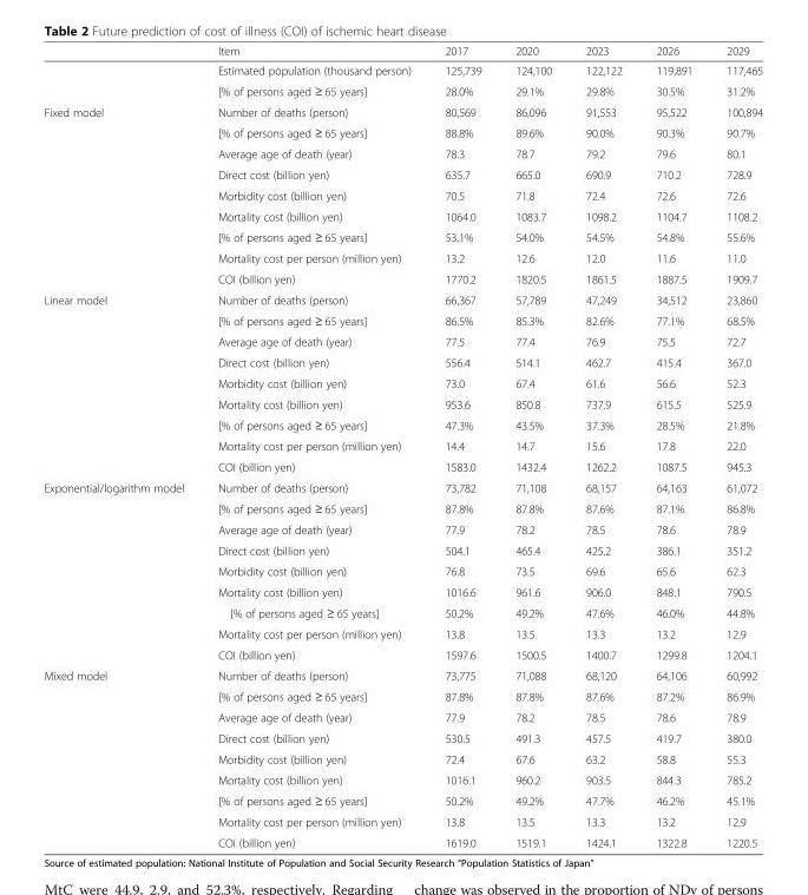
<table><thead><tr><td></td><td>Item</td><td>2017</td><td>2020</td><td>2023</td><td>2026</td><td>2029</td></tr></thead><tbody><tr><td rowspan="2"></td><td>Estimated population (thousand person)</td><td>125,739</td><td>124,100</td><td>122,122</td><td>119,891</td><td>117,465</td></tr><tr><td>[% of persons aged ≥ 65 years]</td><td>28.0%</td><td>29.1%</td><td>29.8%</td><td>30.5%</td><td>31.2%</td></tr><tr><td rowspan="9">Fixed model</td><td>Number of deaths (person)</td><td>80,569</td><td>86,096</td><td>91,553</td><td>95,522</td><td>100,894</td></tr><tr><td>[% of persons aged ≥ 65 years]</td><td>88.8%</td><td>89.6%</td><td>90.0%</td><td>90.3%</td><td>90.7%</td></tr><tr><td>Average age of death (year)</td><td>78.3</td><td>78.7</td><td>79.2</td><td>79.6</td><td>80.1</td></tr><tr><td>Direct cost (billion yen)</td><td>635.7</td><td>665.0</td><td>690.9</td><td>710.2</td><td>728.9</td></tr><tr><td>Morbidity cost (billion yen)</td><td>70.5</td><td>71.8</td><td>72.4</td><td>72.6</td><td>72.6</td></tr><tr><td>Mortality cost (billion yen)</td><td>1064.0</td><td>1083.7</td><td>1098.2</td><td>1104.7</td><td>1108.2</td></tr><tr><td>[% of persons aged ≥ 65 years]</td><td>53.1%</td><td>54.0%</td><td>54.5%</td><td>54.8%</td><td>55.6%</td></tr><tr><td>Mortality cost per person (million yen)</td><td>13.2</td><td>12.6</td><td>12.0</td><td>11.6</td><td>11.0</td></tr><tr><td>COI (billion yen)</td><td>1770.2</td><td>1820.5</td><td>1861.5</td><td>1887.5</td><td>1909.7</td></tr><tr><td rowspan="9">Linear model</td><td>Number of deaths (person)</td><td>66,367</td><td>57,789</td><td>47,249</td><td>34,512</td><td>23,860</td></tr><tr><td>[% of persons aged ≥ 65 years]</td><td>86.5%</td><td>85.3%</td><td>82.6%</td><td>77.1%</td><td>68.5%</td></tr><tr><td>Average age of death (year)</td><td>77.5</td><td>77.4</td><td>76.9</td><td>75.5</td><td>72.7</td></tr><tr><td>Direct cost (billion yen)</td><td>556.4</td><td>514.1</td><td>462.7</td><td>415.4</td><td>367.0</td></tr><tr><td>Morbidity cost (billion yen)</td><td>73.0</td><td>67.4</td><td>61.6</td><td>56.6</td><td>52.3</td></tr><tr><td>Mortality cost (billion yen)</td><td>953.6</td><td>850.8</td><td>737.9</td><td>615.5</td><td>525.9</td></tr><tr><td>[% of persons aged ≥ 65 years]</td><td>47.3%</td><td>43.5%</td><td>37.3%</td><td>28.5%</td><td>21.8%</td></tr><tr><td>Mortality cost per person (million yen)</td><td>14.4</td><td>14.7</td><td>15.6</td><td>17.8</td><td>22.0</td></tr><tr><td>COI (billion yen)</td><td>1583.0</td><td>1432.4</td><td>1262.2</td><td>1087.5</td><td>945.3</td></tr><tr><td rowspan="9">Exponential/logarithm model</td><td>Number of deaths (person)</td><td>73,782</td><td>71,108</td><td>68,157</td><td>64,163</td><td>61,072</td></tr><tr><td>[% of persons aged ≥ 65 years]</td><td>87.8%</td><td>87.8%</td><td>87.6%</td><td>87.1%</td><td>86.8%</td></tr><tr><td>Average age of death (year)</td><td>77.9</td><td>78.2</td><td>78.5</td><td>78.6</td><td>78.9</td></tr><tr><td>Direct cost (billion yen)</td><td>504.1</td><td>465.4</td><td>425.2</td><td>386.1</td><td>351.2</td></tr><tr><td>Morbidity cost (billion yen)</td><td>76.8</td><td>73.5</td><td>69.6</td><td>65.6</td><td>62.3</td></tr><tr><td>Mortality cost (billion yen)</td><td>1016.6</td><td>961.6</td><td>906.0</td><td>848.1</td><td>790.5</td></tr><tr><td>[% of persons aged ≥ 65 years]</td><td>50.2%</td><td>49.2%</td><td>47.6%</td><td>46.0%</td><td>44.8%</td></tr><tr><td>Mortality cost per person (million yen)</td><td>13.8</td><td>13.5</td><td>13.3</td><td>13.2</td><td>12.9</td></tr><tr><td>COI (billion yen)</td><td>1597.6</td><td>1500.5</td><td>1400.7</td><td>1299.8</td><td>1204.1</td></tr><tr><td rowspan="9">Mixed model</td><td>Number of deaths (person)</td><td>73,775</td><td>71,088</td><td>68,120</td><td>64,106</td><td>60,992</td></tr><tr><td>[% of persons aged ≥ 65 years]</td><td>87.8%</td><td>87.8%</td><td>87.6%</td><td>87.2%</td><td>86.9%</td></tr><tr><td>Average age of death (year)</td><td>77.9</td><td>78.2</td><td>78.5</td><td>78.6</td><td>78.9</td></tr><tr><td>Direct cost (billion yen)</td><td>530.5</td><td>491.3</td><td>457.5</td><td>419.7</td><td>380.0</td></tr><tr><td>Morbidity cost (billion yen)</td><td>72.4</td><td>67.6</td><td>63.2</td><td>58.8</td><td>55.3</td></tr><tr><td>Mortality cost (billion yen)</td><td>1016.1</td><td>960.2</td><td>903.5</td><td>844.3</td><td>785.2</td></tr><tr><td>[% of persons aged ≥ 65 years]</td><td>50.2%</td><td>49.2%</td><td>47.7%</td><td>46.2%</td><td>45.1%</td></tr><tr><td>Mortality cost per person (million yen)</td><td>13.8</td><td>13.5</td><td>13.3</td><td>13.2</td><td>12.9</td></tr><tr><td>COI (billion yen)</td><td>1619.0</td><td>1519.1</td><td>1424.1</td><td>1322.8</td><td>1220.5</td></tr></tbody></table>